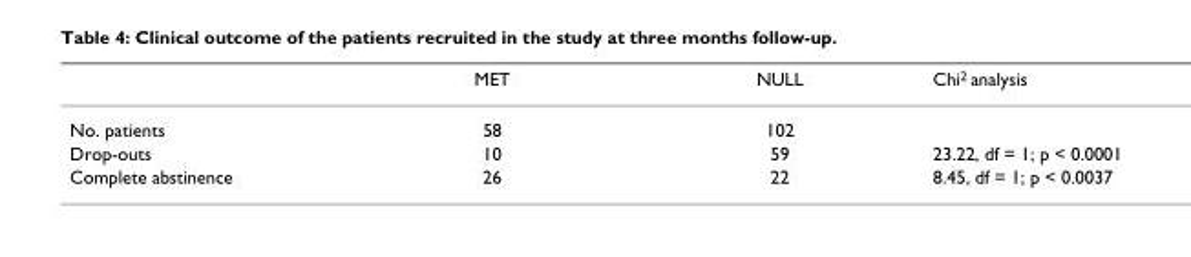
<table><thead><tr><td></td><td>MET</td><td>NULL</td><td>Chi<sup>2</sup> analysis</td></tr></thead><tbody><tr><td>No. patients</td><td>58</td><td>102</td><td></td></tr><tr><td>Drop-outs</td><td>10</td><td>59</td><td>23.22, df = 1; p &lt; 0.0001</td></tr><tr><td>Complete abstinence</td><td>26</td><td>22</td><td>8.45, df = 1; p &lt; 0.0037</td></tr></tbody></table>